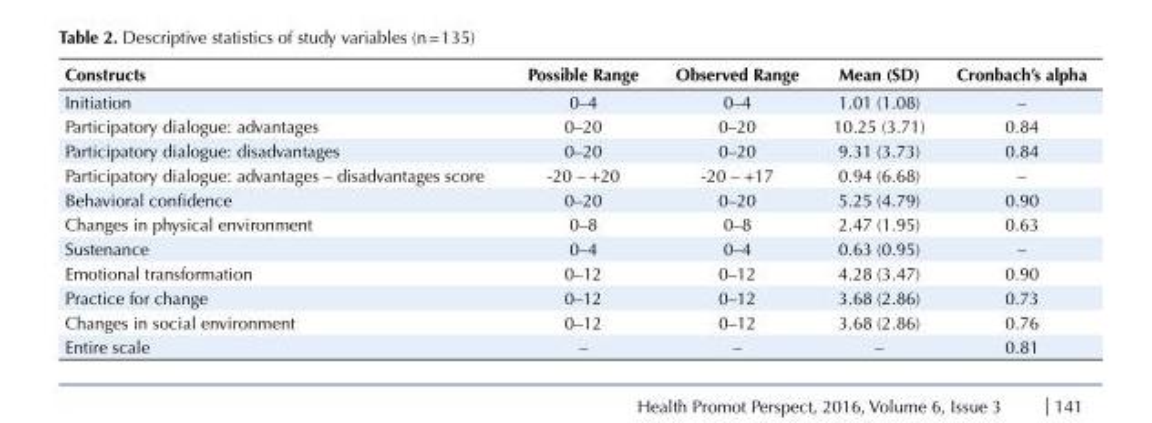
<table><tbody><tr><td>Constructs</td><td>Possible Range</td><td>Observed Range</td><td>Mean (SD)</td><td>Cronbach’s alpha</td></tr><tr><td>Initiation</td><td>0–4</td><td>0–4</td><td>1.01 (1.08)</td><td>–</td></tr><tr><td>Participatory dialogue: advantages</td><td>0–20</td><td>0–20</td><td>10.25 (3.71)</td><td>0.84</td></tr><tr><td>Participatory dialogue: disadvantages</td><td>0–20</td><td>0–20</td><td>9.31 (3.73)</td><td>0.84</td></tr><tr><td>Participatory dialogue: advantages – disadvantages score</td><td>-20 – +20</td><td>-20 – +17</td><td>0.94 (6.68)</td><td>–</td></tr><tr><td>Behavioral confidence</td><td>0–20</td><td>0–20</td><td>5.25 (4.79)</td><td>0.90</td></tr><tr><td>Changes in physical environment</td><td>0–8</td><td>0–8</td><td>2.47 (1.95)</td><td>0.63</td></tr><tr><td>Sustenance</td><td>0–4</td><td>0–4</td><td>0.63 (0.95)</td><td>–</td></tr><tr><td>Emotional transformation</td><td>0–12</td><td>0–12</td><td>4.28 (3.47)</td><td>0.90</td></tr><tr><td>Practice for change</td><td>0–12</td><td>0–12</td><td>3.68 (2.86)</td><td>0.73</td></tr><tr><td>Changes in social environment</td><td>0–12</td><td>0–12</td><td>3.68 (2.86)</td><td>0.76</td></tr><tr><td>Entire scale</td><td>–</td><td>–</td><td>–</td><td>0.81</td></tr></tbody></table>